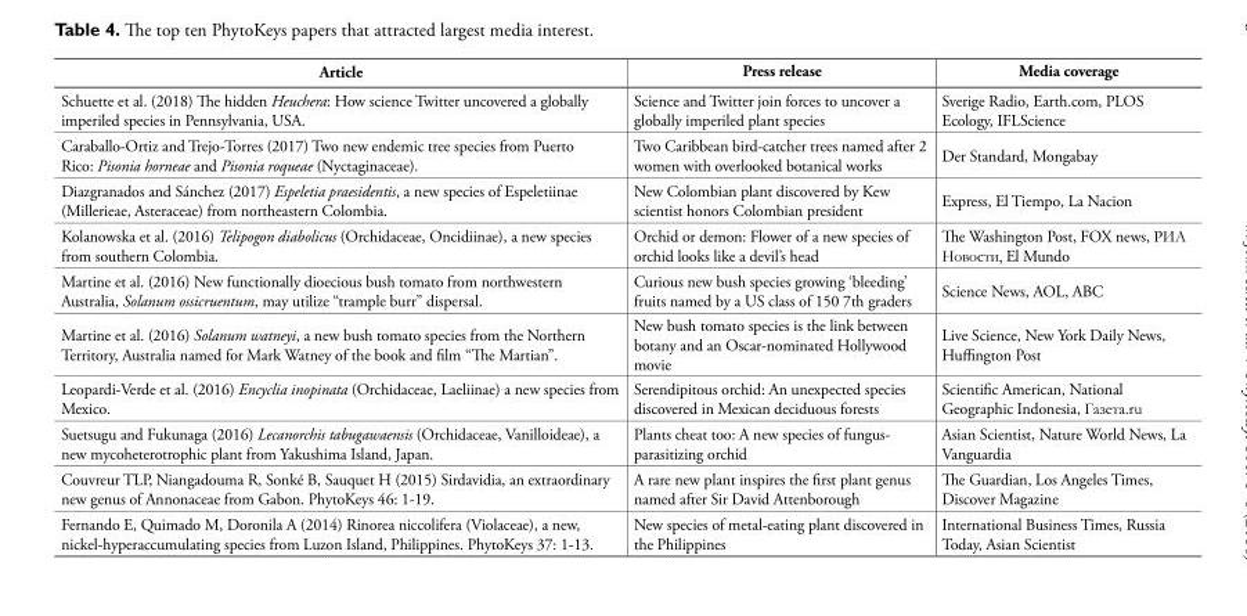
<table><tbody><tr><td>Article</td><td>Press release</td><td>Media coverage</td></tr><tr><td>Schuette et al. (2018) The hidden Heuchera: How science Twitter uncovered a globally imperiled species in Pennsylvania, USA.</td><td>Science and Twitter join forces to uncover a globally imperiled plant species</td><td>Sverige Radio, Earth.com, PLOS Ecology, IFLScience</td></tr><tr><td>Caraballo-Ortiz and Trejo-Torres (2017) Two new endemic tree species from Puerto Rico: Pisonia horneae and Pisonia roqueae (Nyctaginaceae).</td><td>Two Caribbean bird-catcher trees named after 2 women with overlooked botanical works</td><td>Der Standard, Mongabay</td></tr><tr><td>Diazgranados and Sánchez (2017) Espeletia praesidentis, a new species of Espeletiinae (Millerieae, Asteraceae) from northeastern Colombia.</td><td>New Colombian plant discovered by Kew scientist honors Colombian president</td><td>Express, El Tiempo, La Nacion</td></tr><tr><td>Kolanowska et al. (2016) Telipogon diabolicus (Orchidaceae, Oncidiinae), a new species from southern Colombia.</td><td>Orchid or demon: Flower of a new species of orchid looks like a devil’s head</td><td>The Washington Post, FOX news, РИА Новости, El Mundo</td></tr><tr><td>Martine et al. (2016) New functionally dioecious bush tomato from northwestern Australia, Solanum ossicruentum, may utilize “trample burr” dispersal.</td><td>Curious new bush species growing ‘bleeding’ fruits named by a US class of 150 7th graders</td><td>Science News, AOL, ABC</td></tr><tr><td>Martine et al. (2016) Solanum watneyi, a new bush tomato species from the Northern Territory, Australia named for Mark Watney of the book and film “The Martian”.</td><td>New bush tomato species is the link between botany and an Oscar-nominated Hollywood movie</td><td>Live Science, New York Daily News, Huffington Post</td></tr><tr><td>Leopardi-Verde et al. (2016) Encyclia inopinata (Orchidaceae, Laeliinae) a new species from Mexico.</td><td>Serendipitous orchid: An unexpected species discovered in Mexican deciduous forests</td><td>Scientific American, National Geographic Indonesia, Газета.ru</td></tr><tr><td>Suetsugu and Fukunaga (2016) Lecanorchis tabugawaensis (Orchidaceae, Vanilloideae), a new mycoheterotrophic plant from Yakushima Island, Japan.</td><td>Plants cheat too: A new species of fungus- parasitizing orchid</td><td>Asian Scientist, Nature World News, La Vanguardia</td></tr><tr><td>Couvreur TLP, Niangadouma R, Sonké B, Sauquet H (2015) Sirdavidia, an extraordinary new genus of Annonaceae from Gabon. PhytoKeys 46: 1-19.</td><td>A rare new plant inspires the first plant genus named after Sir David Attenborough</td><td>The Guardian, Los Angeles Times, Discover Magazine</td></tr><tr><td>Fernando E, Quimado M, Doronila A (2014) Rinorea niccolifera (Violaceae), a new, nickel-hyperaccumulating species from Luzon Island, Philippines. PhytoKeys 37: 1-13.</td><td>New species of metal-eating plant discovered in the Philippines</td><td>International Business Times, Russia Today, Asian Scientist</td></tr></tbody></table>